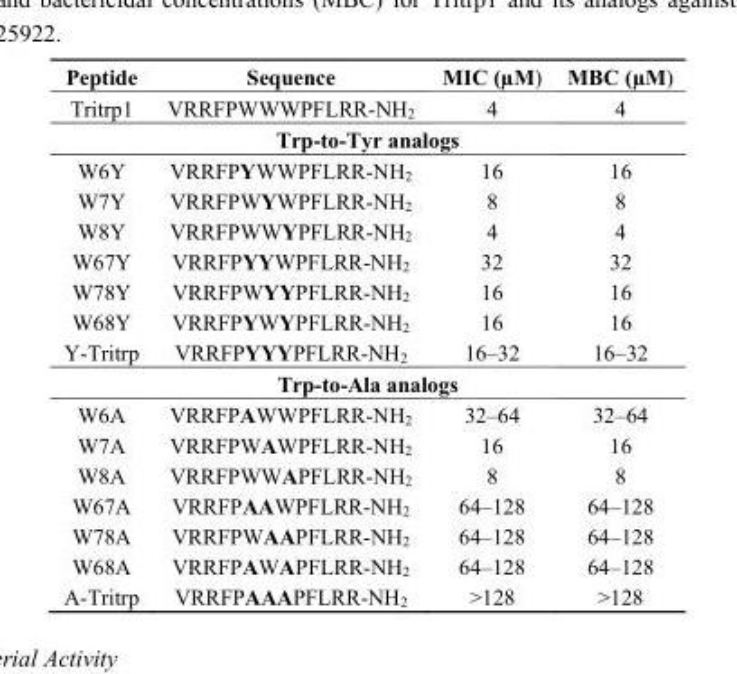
<table><thead><tr><td>Peptide</td><td>Sequence</td><td>MIC (µM)</td><td>MBC (µM)</td></tr></thead><tbody><tr><td>Tritrp1</td><td>VRRFPWWWPFLRR-NH<sub>2</sub></td><td>4</td><td>4</td></tr><tr><td colspan="4">Trp-to-Tyr analogs</td></tr><tr><td>W6Y</td><td>VRRFPYWWPFLRR-NH<sub>2</sub></td><td>16</td><td>16</td></tr><tr><td>W7Y</td><td>VRRFPWYWPFLRR-NH<sub>2</sub></td><td>8</td><td>8</td></tr><tr><td>W8Y</td><td>VRRFPWWYPFLRR-NH<sub>2</sub></td><td>4</td><td>4</td></tr><tr><td>W67Y</td><td>VRRFPYYWPFLRR-NH<sub>2</sub></td><td>32</td><td>32</td></tr><tr><td>W78Y</td><td>VRRFPWYYPFLRR-NH<sub>2</sub></td><td>16</td><td>16</td></tr><tr><td>W68Y</td><td>VRRFPYWYPFLRR-NH<sub>2</sub></td><td>16</td><td>16</td></tr><tr><td>Y-Tritrp</td><td>VRRFPYYYPFLRR-NH<sub>2</sub></td><td>16–32</td><td>16–32</td></tr><tr><td colspan="4">Trp-to-Ala analogs</td></tr><tr><td>W6A</td><td>VRRFPAWWPFLRR-NH<sub>2</sub></td><td>32–64</td><td>32–64</td></tr><tr><td>W7A</td><td>VRRFPWAWPFLRR-NH<sub>2</sub></td><td>16</td><td>16</td></tr><tr><td>W8A</td><td>VRRFPWWAPFLRR-NH<sub>2</sub></td><td>8</td><td>8</td></tr><tr><td>W67A</td><td>VRRFPAAWPFLRR-NH<sub>2</sub></td><td>64–128</td><td>64–128</td></tr><tr><td>W78A</td><td>VRRFPWAAPFLRR-NH<sub>2</sub></td><td>64–128</td><td>64–128</td></tr><tr><td>W68A</td><td>VRRFPAWAPFLRR-NH<sub>2</sub></td><td>64–128</td><td>64–128</td></tr><tr><td>A-Tritrp</td><td>VRRFPAAAPFLRR-NH<sub>2</sub></td><td>&gt;128</td><td>&gt;128</td></tr></tbody></table>